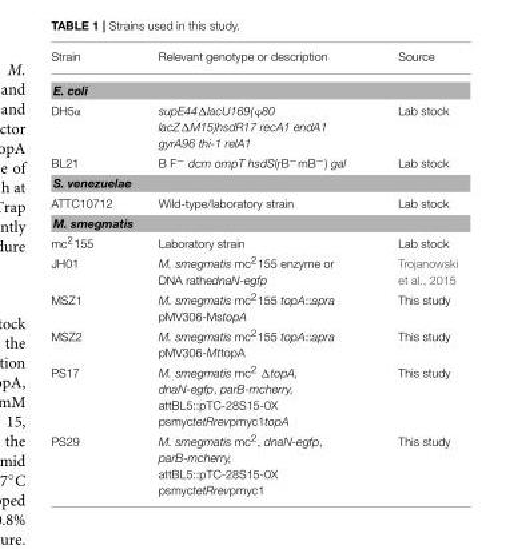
<table><thead><tr><td>Strain</td><td>Relevant genotype or description</td><td>Source</td></tr></thead><tbody><tr><td colspan="3">E. coli</td></tr><tr><td>DH5α</td><td>supE44ΔlacU169(ϕ80 lacZΔM15)hsdR17 recA1 endA1 gyrA96 thi-1 relA1</td><td>Lab stock</td></tr><tr><td>BL21</td><td>B F<sup>−</sup> dcm ompT hsdS(rB<sup>−</sup>mB<sup>−</sup>) gal</td><td>Lab stock</td></tr><tr><td colspan="3">S. venezuelae</td></tr><tr><td>ATTC10712</td><td>Wild-type/laboratory strain</td><td>Lab stock</td></tr><tr><td colspan="3">M. smegmatis</td></tr><tr><td>mc<sup>2</sup>155</td><td>Laboratory strain</td><td>Lab stock</td></tr><tr><td>JH01</td><td>M. smegmatis mc<sup>2</sup>155 enzyme or DNA rathednaN-egfp</td><td>Trojanowski et al., 2015</td></tr><tr><td>MSZ1</td><td>M. smegmatis mc<sup>2</sup>155 topA::apra pMV306-MstopA</td><td>This study</td></tr><tr><td>MSZ2</td><td>M. smegmatis mc<sup>2</sup>155 topA::apra pMV306-MttopA</td><td>This study</td></tr><tr><td>PS17</td><td>M. smegmatis mc<sup>2</sup> ΔtopA, dnaN-egfp, parB-mcherry, attBL5::pTC-28S15-0X psmyctetRrevpmyc1topA</td><td>This study</td></tr><tr><td>PS29</td><td>M. smegmatis mc<sup>2</sup>, dnaN-egfp, parB-mcherry, attBL5::pTC-28S15-0X psmyctetRrevpmyc1</td><td>This study</td></tr></tbody></table>